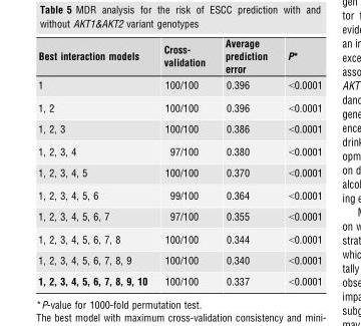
<table><thead><tr><td>Best interaction models</td><td>Cross- validation</td><td>Average prediction error</td><td>P*</td></tr></thead><tbody><tr><td>1</td><td>100/100</td><td>0.396</td><td>&lt;0.0001</td></tr><tr><td>1, 2</td><td>100/100</td><td>0.396</td><td>&lt;0.0001</td></tr><tr><td>1, 2, 3</td><td>100/100</td><td>0.386</td><td>&lt;0.0001</td></tr><tr><td>1, 2, 3, 4</td><td>97/100</td><td>0.380</td><td>&lt;0.0001</td></tr><tr><td>1, 2, 3, 4, 5</td><td>100/100</td><td>0.370</td><td>&lt;0.0001</td></tr><tr><td>1, 2, 3, 4, 5, 6</td><td>99/100</td><td>0.364</td><td>&lt;0.0001</td></tr><tr><td>1, 2, 3, 4, 5, 6, 7</td><td>97/100</td><td>0.355</td><td>&lt;0.0001</td></tr><tr><td>1, 2, 3, 4, 5, 6, 7, 8</td><td>100/100</td><td>0.344</td><td>&lt;0.0001</td></tr><tr><td>1, 2, 3, 4, 5, 6, 7, 8, 9</td><td>100/100</td><td>0.340</td><td>&lt;0.0001</td></tr><tr><td>1, 2, 3, 4, 5, 6, 7, 8, 9, 10</td><td>100/100</td><td>0.337</td><td>&lt;0.0001</td></tr></tbody></table>